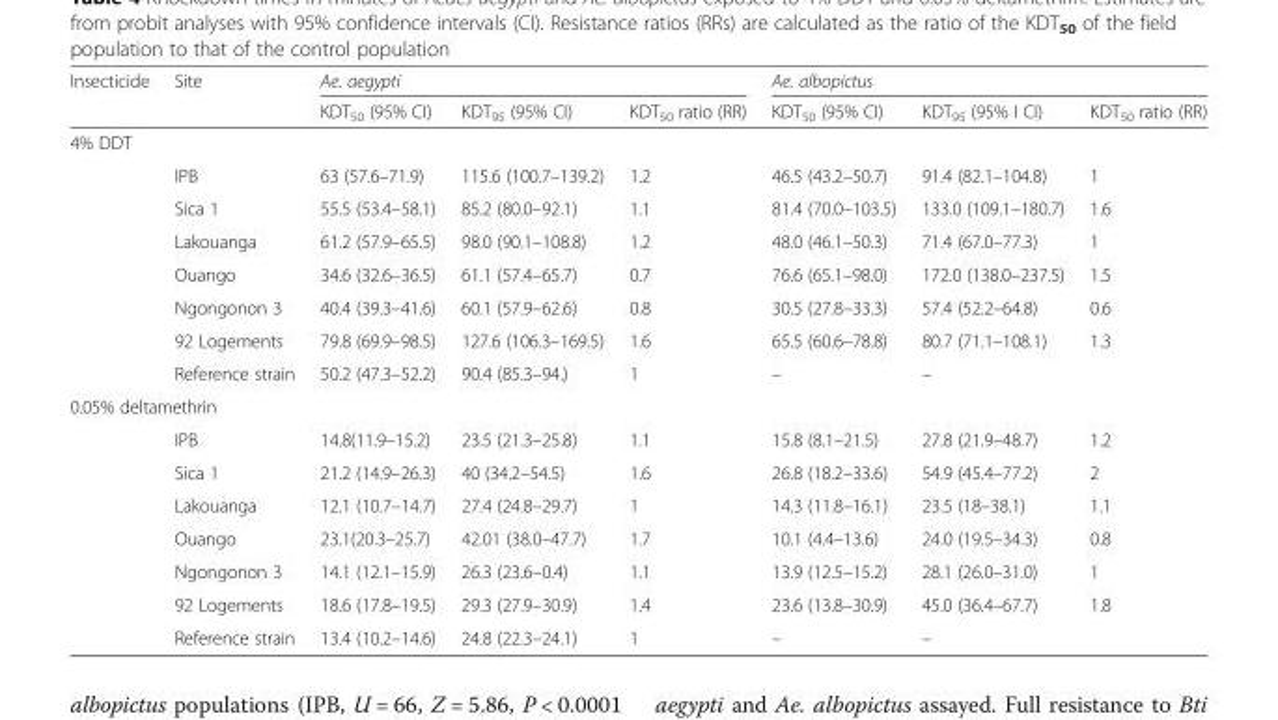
<table><thead><tr><td rowspan="2">Insecticide</td><td rowspan="2">Site</td><td colspan="3">Ae. aegypti</td><td colspan="3">Ae. albopictus</td></tr><tr><td>KDT<sub>50</sub> (95% CI)</td><td>KDT<sub>95</sub> (95% CI)</td><td>KDT<sub>50</sub> ratio (RR)</td><td>KDT<sub>50</sub> (95% CI)</td><td>KDT<sub>95</sub> (95% I CI)</td><td>KDT<sub>50</sub> ratio (RR)</td></tr></thead><tbody><tr><td colspan="8">4% DDT</td></tr><tr><td rowspan="7"></td><td>IPB</td><td>63 (57.6–71.9)</td><td>115.6 (100.7–139.2)</td><td>1.2</td><td>46.5 (43.2–50.7)</td><td>91.4 (82.1–104.8)</td><td>1</td></tr><tr><td>Sica 1</td><td>55.5 (53.4–58.1)</td><td>85.2 (80.0–92.1)</td><td>1.1</td><td>81.4 (70.0–103.5)</td><td>133.0 (109.1–180.7)</td><td>1.6</td></tr><tr><td>Lakouanga</td><td>61.2 (57.9–65.5)</td><td>98.0 (90.1–108.8)</td><td>1.2</td><td>48.0 (46.1–50.3)</td><td>71.4 (67.0–77.3)</td><td>1</td></tr><tr><td>Ouango</td><td>34.6 (32.6–36.5)</td><td>61.1 (57.4–65.7)</td><td>0.7</td><td>76.6 (65.1–98.0)</td><td>172.0 (138.0–237.5)</td><td>1.5</td></tr><tr><td>Ngongonon 3</td><td>40.4 (39.3–41.6)</td><td>60.1 (57.9–62.6)</td><td>0.8</td><td>30.5 (27.8–33.3)</td><td>57.4 (52.2–64.8)</td><td>0.6</td></tr><tr><td>92 Logements</td><td>79.8 (69.9–98.5)</td><td>127.6 (106.3–169.5)</td><td>1.6</td><td>65.5 (60.6–78.8)</td><td>80.7 (71.1–108.1)</td><td>1.3</td></tr><tr><td>Reference strain</td><td>50.2 (47.3–52.2)</td><td>90.4 (85.3–94.)</td><td>1</td><td>–</td><td>–</td><td></td></tr><tr><td colspan="8">0.05% deltamethrin</td></tr><tr><td rowspan="7"></td><td>IPB</td><td>14.8(11.9–15.2)</td><td>23.5 (21.3–25.8)</td><td>1.1</td><td>15.8 (8.1–21.5)</td><td>27.8 (21.9–48.7)</td><td>1.2</td></tr><tr><td>Sica 1</td><td>21.2 (14.9–26.3)</td><td>40 (34.2–54.5)</td><td>1.6</td><td>26.8 (18.2–33.6)</td><td>54.9 (45.4–77.2)</td><td>2</td></tr><tr><td>Lakouanga</td><td>12.1 (10.7–14.7)</td><td>27.4 (24.8–29.7)</td><td>1</td><td>14.3 (11.8–16.1)</td><td>23.5 (18–38.1)</td><td>1.1</td></tr><tr><td>Ouango</td><td>23.1(20.3–25.7)</td><td>42.01 (38.0–47.7)</td><td>1.7</td><td>10.1 (4.4–13.6)</td><td>24.0 (19.5–34.3)</td><td>0.8</td></tr><tr><td>Ngongonon 3</td><td>14.1 (12.1–15.9)</td><td>26.3 (23.6–0.4)</td><td>1.1</td><td>13.9 (12.5–15.2)</td><td>28.1 (26.0–31.0)</td><td>1</td></tr><tr><td>92 Logements</td><td>18.6 (17.8–19.5)</td><td>29.3 (27.9–30.9)</td><td>1.4</td><td>23.6 (13.8–30.9)</td><td>45.0 (36.4–67.7)</td><td>1.8</td></tr><tr><td>Reference strain</td><td>13.4 (10.2–14.6)</td><td>24.8 (22.3–24.1)</td><td>1</td><td>–</td><td>–</td><td></td></tr></tbody></table>